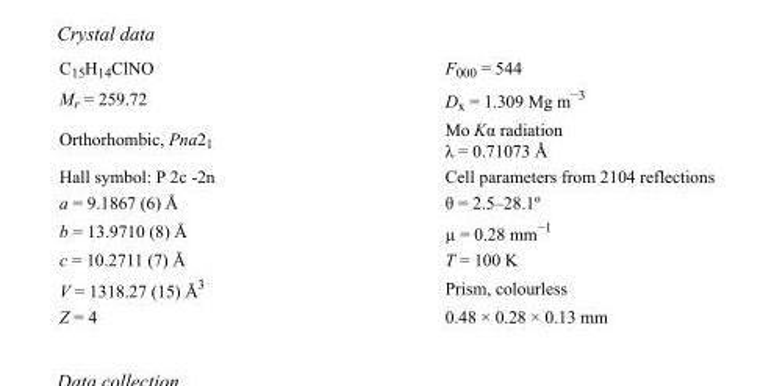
<table><tbody><tr><td>C<sub>15</sub>H<sub>14</sub>ClNO</td><td>F000 = 544</td></tr><tr><td>M<sub>r</sub> = 259.72</td><td>D<sub>x</sub> = 1.309 Mg m<sup>−3</sup></td></tr><tr><td>Orthorhombic, Pna2<sub>1</sub></td><td>Mo Kα radiation λ = 0.71073 Å</td></tr><tr><td>Hall symbol: P 2c -2n</td><td>Cell parameters from 2104 reflections</td></tr><tr><td>a = 9.1867 (6) Å</td><td>θ = 2.5–28.1º</td></tr><tr><td>b = 13.9710 (8) Å</td><td>µ = 0.28 mm<sup>−1</sup></td></tr><tr><td>c = 10.2711 (7) Å</td><td>T = 100 K</td></tr><tr><td>V = 1318.27 (15) Å<sup>3</sup></td><td>Prism, colourless</td></tr><tr><td>Z = 4</td><td>0.48 × 0.28 × 0.13 mm</td></tr></tbody></table>